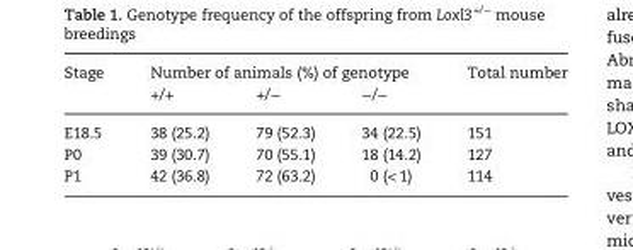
<table><thead><tr><td rowspan="2">Stage</td><td colspan="3">Number of animals (%) of genotype</td><td rowspan="2">Total number</td></tr><tr><td>+/+</td><td>+/−</td><td>−/−</td></tr></thead><tbody><tr><td>E18.5</td><td>38 (25.2)</td><td>79 (52.3)</td><td>34 (22.5)</td><td>151</td></tr><tr><td>P0</td><td>39 (30.7)</td><td>70 (55.1)</td><td>18 (14.2)</td><td>127</td></tr><tr><td>P1</td><td>42 (36.8)</td><td>72 (63.2)</td><td>0 (&lt; 1)</td><td>114</td></tr></tbody></table>